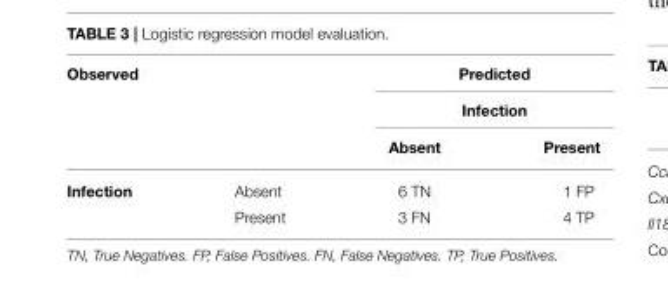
<table><thead><tr><td colspan="2">Observed</td><td rowspan="2" colspan="2">Predicted Infection</td></tr><tr><td rowspan="2"></td><td rowspan="2"></td></tr><tr><td>Absent</td><td>Present</td></tr></thead><tbody><tr><td rowspan="2">Infection</td><td>Absent</td><td>6 TN</td><td>1 FP</td></tr><tr><td>Present</td><td>3 FN</td><td>4 TP</td></tr></tbody></table>